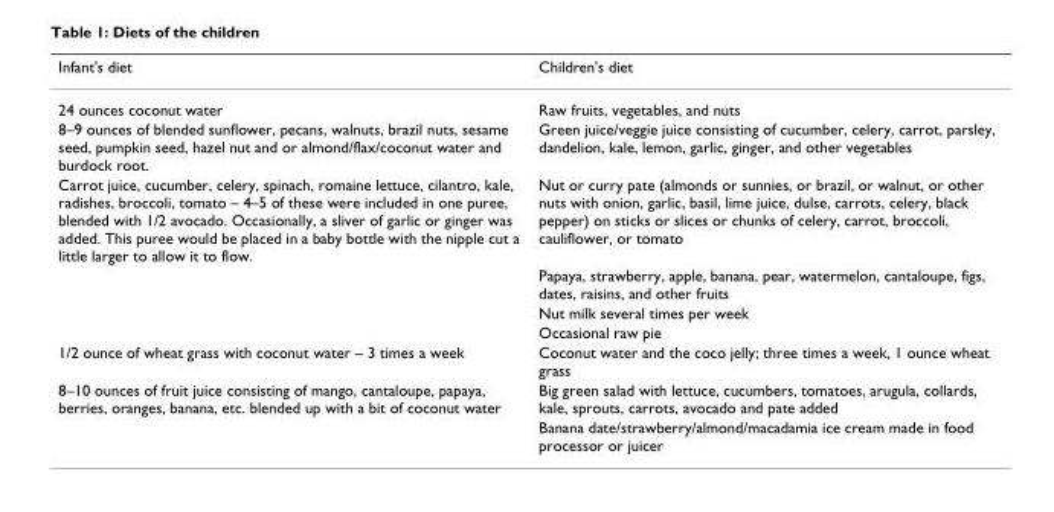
<table><thead><tr><td>Infant&#x27;s diet</td><td>Children&#x27;s diet</td></tr></thead><tbody><tr><td>24 ounces coconut water</td><td>Raw fruits, vegetables, and nuts</td></tr><tr><td>8–9 ounces of blended sunflower, pecans, walnuts, brazil nuts, sesame seed, pumpkin seed, hazel nut and or almond/flax/coconut water and burdock root.</td><td>Green juice/veggie juice consisting of cucumber, celery, carrot, parsley, dandelion, kale, lemon, garlic, ginger, and other vegetables</td></tr><tr><td rowspan="4">Carrot juice, cucumber, celery, spinach, romaine lettuce, cilantro, kale, radishes, broccoli, tomato – 4–5 of these were included in one puree, blended with 1/2 avocado. Occasionally, a sliver of garlic or ginger was added. This puree would be placed in a baby bottle with the nipple cut a little larger to allow it to flow.</td><td>Nut or curry pate (almonds or sunnies, or brazil, or walnut, or other nuts with onion, garlic, basil, lime juice, dulse, carrots, celery, black pepper) on sticks or slices or chunks of celery, carrot, broccoli, cauliflower, or tomato</td></tr><tr><td>Papaya, strawberry, apple, banana, pear, watermelon, cantaloupe, figs, dates, raisins, and other fruits</td></tr><tr><td>Nut milk several times per week</td></tr><tr><td>Occasional raw pie</td></tr><tr><td>1/2 ounce of wheat grass with coconut water – 3 times a week</td><td>Coconut water and the coco jelly; three times a week, 1 ounce wheat grass</td></tr><tr><td rowspan="2">8–10 ounces of fruit juice consisting of mango, cantaloupe, papaya, berries, oranges, banana, etc. blended up with a bit of coconut water</td><td>Big green salad with lettuce, cucumbers, tomatoes, arugula, collards, kale, sprouts, carrots, avocado and pate added</td></tr><tr><td>Banana date/strawberry/almond/macadamia ice cream made in food processor or juicer</td></tr></tbody></table>